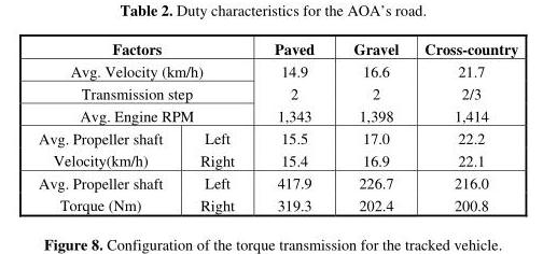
<table><thead><tr><td colspan="2">Factors</td><td>Paved</td><td>Gravel</td><td>Cross-country</td></tr></thead><tbody><tr><td colspan="2">Avg. Velocity (km/h)</td><td>14.9</td><td>16.6</td><td>21.7</td></tr><tr><td colspan="2">Transmission step</td><td>2</td><td>2</td><td>2/3</td></tr><tr><td colspan="2">Avg. Engine RPM</td><td>1,343</td><td>1,398</td><td>1,414</td></tr><tr><td>Avg. Propeller shaft</td><td>Left</td><td>15.5</td><td>17.0</td><td>22.2</td></tr><tr><td>Velocity(km/h)</td><td>Right</td><td>15.4</td><td>16.9</td><td>22.1</td></tr><tr><td>Avg. Propeller shaft</td><td>Left</td><td>417.9</td><td>226.7</td><td>216.0</td></tr><tr><td>Torque (Nm)</td><td>Right</td><td>319.3</td><td>202.4</td><td>200.8</td></tr></tbody></table>